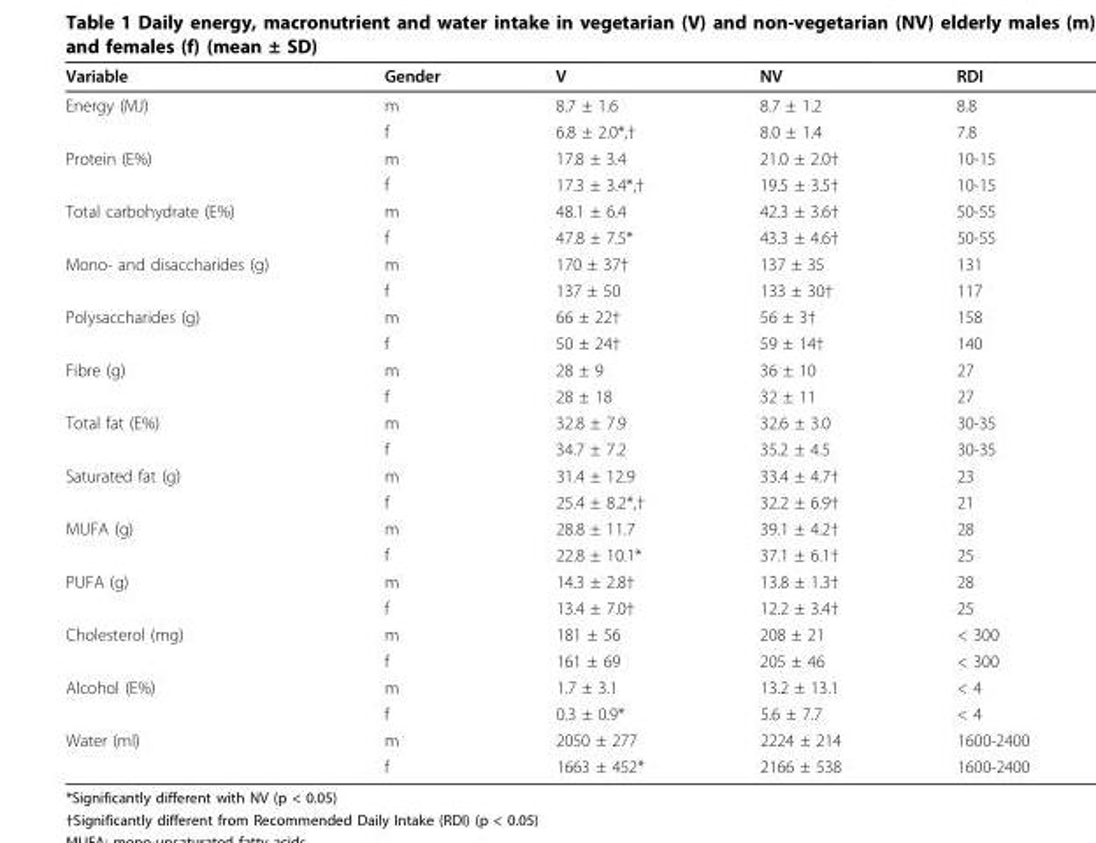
<table><thead><tr><td>Variable</td><td>Gender</td><td>V</td><td>NV</td><td>RDI</td></tr></thead><tbody><tr><td rowspan="2">Energy (MJ)</td><td>m</td><td>8.7 ± 1.6</td><td>8.7 ± 1.2</td><td>8.8</td></tr><tr><td>f</td><td>6.8 ± 2.0*,†</td><td>8.0 ± 1.4</td><td>7.8</td></tr><tr><td rowspan="2">Protein (E%)</td><td>m</td><td>17.8 ± 3.4</td><td>21.0 ± 2.0†</td><td>10-15</td></tr><tr><td>f</td><td>17.3 ± 3.4*,†</td><td>19.5 ± 3.5†</td><td>10-15</td></tr><tr><td rowspan="2">Total carbohydrate (E%)</td><td>m</td><td>48.1 ± 6.4</td><td>42.3 ± 3.6†</td><td>50-55</td></tr><tr><td>f</td><td>47.8 ± 7.5*</td><td>43.3 ± 4.6†</td><td>50-55</td></tr><tr><td rowspan="2">Mono- and disaccharides (g)</td><td>m</td><td>170 ± 37†</td><td>137 ± 35</td><td>131</td></tr><tr><td>f</td><td>137 ± 50</td><td>133 ± 30†</td><td>117</td></tr><tr><td rowspan="2">Polysaccharides (g)</td><td>m</td><td>66 ± 22†</td><td>56 ± 3†</td><td>158</td></tr><tr><td>f</td><td>50 ± 24†</td><td>59 ± 14†</td><td>140</td></tr><tr><td rowspan="2">Fibre (g)</td><td>m</td><td>28 ± 9</td><td>36 ± 10</td><td>27</td></tr><tr><td>f</td><td>28 ± 18</td><td>32 ± 11</td><td>27</td></tr><tr><td rowspan="2">Total fat (E%)</td><td>m</td><td>32.8 ± 7.9</td><td>32.6 ± 3.0</td><td>30-35</td></tr><tr><td>f</td><td>34.7 ± 7.2</td><td>35.2 ± 4.5</td><td>30-35</td></tr><tr><td rowspan="2">Saturated fat (g)</td><td>m</td><td>31.4 ± 12.9</td><td>33.4 ± 4.7†</td><td>23</td></tr><tr><td>f</td><td>25.4 ± 8.2*,†</td><td>32.2 ± 6.9†</td><td>21</td></tr><tr><td rowspan="2">MUFA (g)</td><td>m</td><td>28.8 ± 11.7</td><td>39.1 ± 4.2†</td><td>28</td></tr><tr><td>f</td><td>22.8 ± 10.1*</td><td>37.1 ± 6.1†</td><td>25</td></tr><tr><td rowspan="2">PUFA (g)</td><td>m</td><td>14.3 ± 2.8†</td><td>13.8 ± 1.3†</td><td>28</td></tr><tr><td>f</td><td>13.4 ± 7.0†</td><td>12.2 ± 3.4†</td><td>25</td></tr><tr><td rowspan="2">Cholesterol (mg)</td><td>m</td><td>181 ± 56</td><td>208 ± 21</td><td>&lt; 300</td></tr><tr><td>f</td><td>161 ± 69</td><td>205 ± 46</td><td>&lt; 300</td></tr><tr><td rowspan="2">Alcohol (E%)</td><td>m</td><td>1.7 ± 3.1</td><td>13.2 ± 13.1</td><td>&lt; 4</td></tr><tr><td>f</td><td>0.3 ± 0.9*</td><td>5.6 ± 7.7</td><td>&lt; 4</td></tr><tr><td rowspan="2">Water (ml)</td><td>m</td><td>2050 ± 277</td><td>2224 ± 214</td><td>1600-2400</td></tr><tr><td>f</td><td>1663 ± 452*</td><td>2166 ± 538</td><td>1600-2400</td></tr></tbody></table>